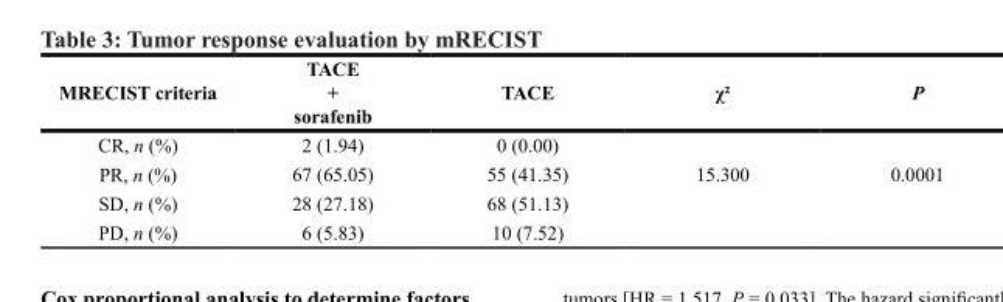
<table><thead><tr><td>MRECIST criteria</td><td>TACE + sorafenib</td><td>TACE</td><td>χ²</td><td>P</td></tr></thead><tbody><tr><td>CR, n (%)</td><td>2 (1.94)</td><td>0 (0.00)</td><td></td><td></td></tr><tr><td>PR, n (%)</td><td>67 (65.05)</td><td>55 (41.35)</td><td>15.300</td><td>0.0001</td></tr><tr><td>SD, n (%)</td><td>28 (27.18)</td><td>68 (51.13)</td><td></td><td></td></tr><tr><td>PD, n (%)</td><td>6 (5.83)</td><td>10 (7.52)</td><td></td><td></td></tr></tbody></table>